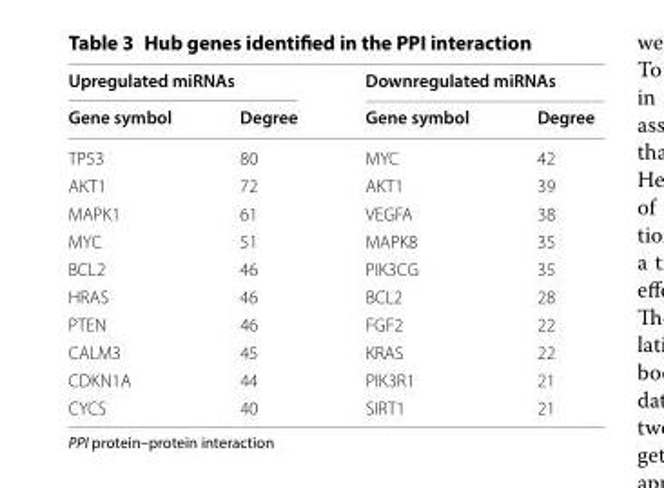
<table><thead><tr><td colspan="2">Upregulated miRNAs</td><td colspan="2">Downregulated miRNAs</td></tr><tr><td>Gene symbol</td><td>Degree</td><td>Gene symbol</td><td>Degree</td></tr></thead><tbody><tr><td>TP53</td><td>80</td><td>MYC</td><td>42</td></tr><tr><td>AKT1</td><td>72</td><td>AKT1</td><td>39</td></tr><tr><td>MAPK1</td><td>61</td><td>VEGFA</td><td>38</td></tr><tr><td>MYC</td><td>51</td><td>MAPK8</td><td>35</td></tr><tr><td>BCL2</td><td>46</td><td>PIK3CG</td><td>35</td></tr><tr><td>HRAS</td><td>46</td><td>BCL2</td><td>28</td></tr><tr><td>PTEN</td><td>46</td><td>FGF2</td><td>22</td></tr><tr><td>CALM3</td><td>45</td><td>KRAS</td><td>22</td></tr><tr><td>CDKN1A</td><td>44</td><td>PIK3R1</td><td>21</td></tr><tr><td>CYCS</td><td>40</td><td>SIRT1</td><td>21</td></tr></tbody></table>